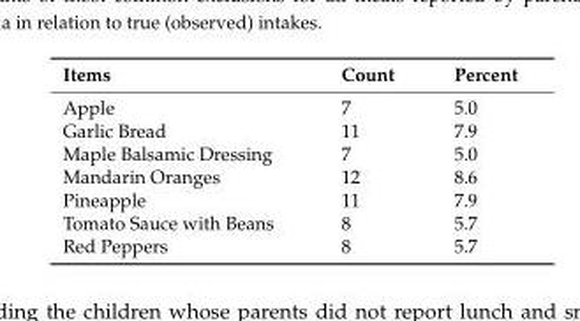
<table><thead><tr><td>Items</td><td>Count</td><td>Percent</td></tr></thead><tbody><tr><td>Apple</td><td>7</td><td>5.0</td></tr><tr><td>Garlic Bread</td><td>11</td><td>7.9</td></tr><tr><td>Maple Balsamic Dressing</td><td>7</td><td>5.0</td></tr><tr><td>Mandarin Oranges</td><td>12</td><td>8.6</td></tr><tr><td>Pineapple</td><td>11</td><td>7.9</td></tr><tr><td>Tomato Sauce with Beans</td><td>8</td><td>5.7</td></tr><tr><td>Red Peppers</td><td>8</td><td>5.7</td></tr></tbody></table>